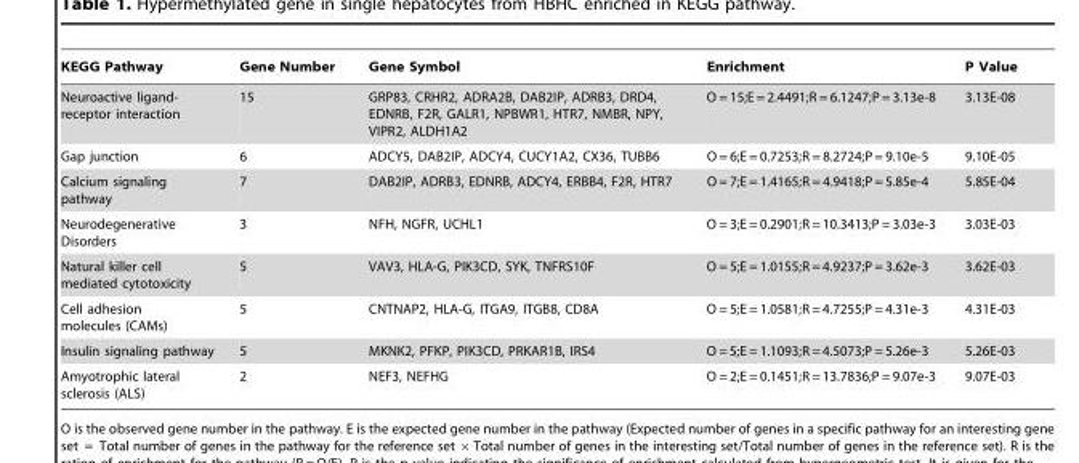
<table><thead><tr><td>KEGG Pathway</td><td>Gene Number</td><td>Gene Symbol</td><td>Enrichment</td><td>P Value</td></tr></thead><tbody><tr><td>Neuroactive ligand- receptor interaction</td><td>15</td><td>GRP83, CRHR2, ADRA2B, DAB2IP, ADRB3, DRD4, EDNRB, F2R, GALR1, NPBWR1, HTR7, NMBR, NPY, VIPR2, ALDH1A2</td><td>O = 15;E = 2.4491;R = 6.1247;P = 3.13e-8</td><td>3.13E-08</td></tr><tr><td>Gap junction</td><td>6</td><td>ADCY5, DAB2IP, ADCY4, CUCY1A2, CX36, TUBB6</td><td>O = 6;E = 0.7253;R = 8.2724;P = 9.10e-5</td><td>9.10E-05</td></tr><tr><td>Calcium signaling pathway</td><td>7</td><td>DAB2IP, ADRB3, EDNRB, ADCY4, ERBB4, F2R, HTR7</td><td>O = 7;E = 1.4165;R = 4.9418;P = 5.85e-4</td><td>5.85E-04</td></tr><tr><td>Neurodegenerative Disorders</td><td>3</td><td>NFH, NGFR, UCHL1</td><td>O = 3;E = 0.2901;R = 10.3413;P = 3.03e-3</td><td>3.03E-03</td></tr><tr><td>Natural killer cell mediated cytotoxicity</td><td>5</td><td>VAV3, HLA-G, PIK3CD, SYK, TNFRS10F</td><td>O = 5;E = 1.0155;R = 4.9237;P = 3.62e-3</td><td>3.62E-03</td></tr><tr><td>Cell adhesion molecules (CAMs)</td><td>5</td><td>CNTNAP2, HLA-G, ITGA9, ITGB8, CD8A</td><td>O = 5;E = 1.0581;R = 4.7255;P = 4.31e-3</td><td>4.31E-03</td></tr><tr><td>Insulin signaling pathway</td><td>5</td><td>MKNK2, PFKP, PIK3CD, PRKAR1B, IRS4</td><td>O = 5;E = 1.1093;R = 4.5073;P = 5.26e-3</td><td>5.26E-03</td></tr><tr><td>Amyotrophic lateral sclerosis (ALS)</td><td>2</td><td>NEF3, NEFHG</td><td>O = 2;E = 0.1451;R = 13.7836;P = 9.07e-3</td><td>9.07E-03</td></tr></tbody></table>